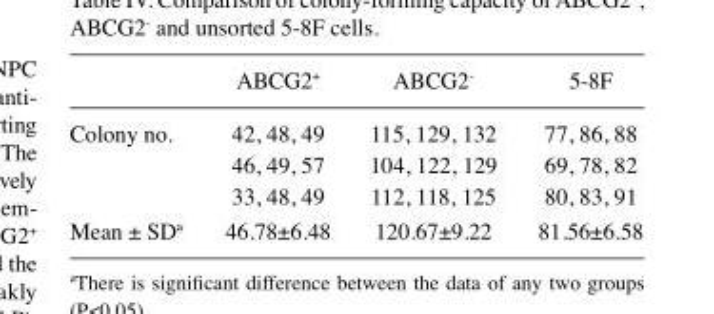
<table><thead><tr><td></td><td>ABCG2<sup>+</sup></td><td>ABCG2<sup>-</sup></td><td>5-8F</td></tr></thead><tbody><tr><td rowspan="3">Colony no.</td><td>42, 48, 49</td><td>115, 129, 132</td><td>77, 86, 88</td></tr><tr><td>46, 49, 57</td><td>104, 122, 129</td><td>69, 78, 82</td></tr><tr><td>33, 48, 49</td><td>112, 118, 125</td><td>80, 83, 91</td></tr><tr><td>Mean ± SD<sup>a</sup></td><td>46.78±6.48</td><td>120.67±9.22</td><td>81.56±6.58</td></tr></tbody></table>